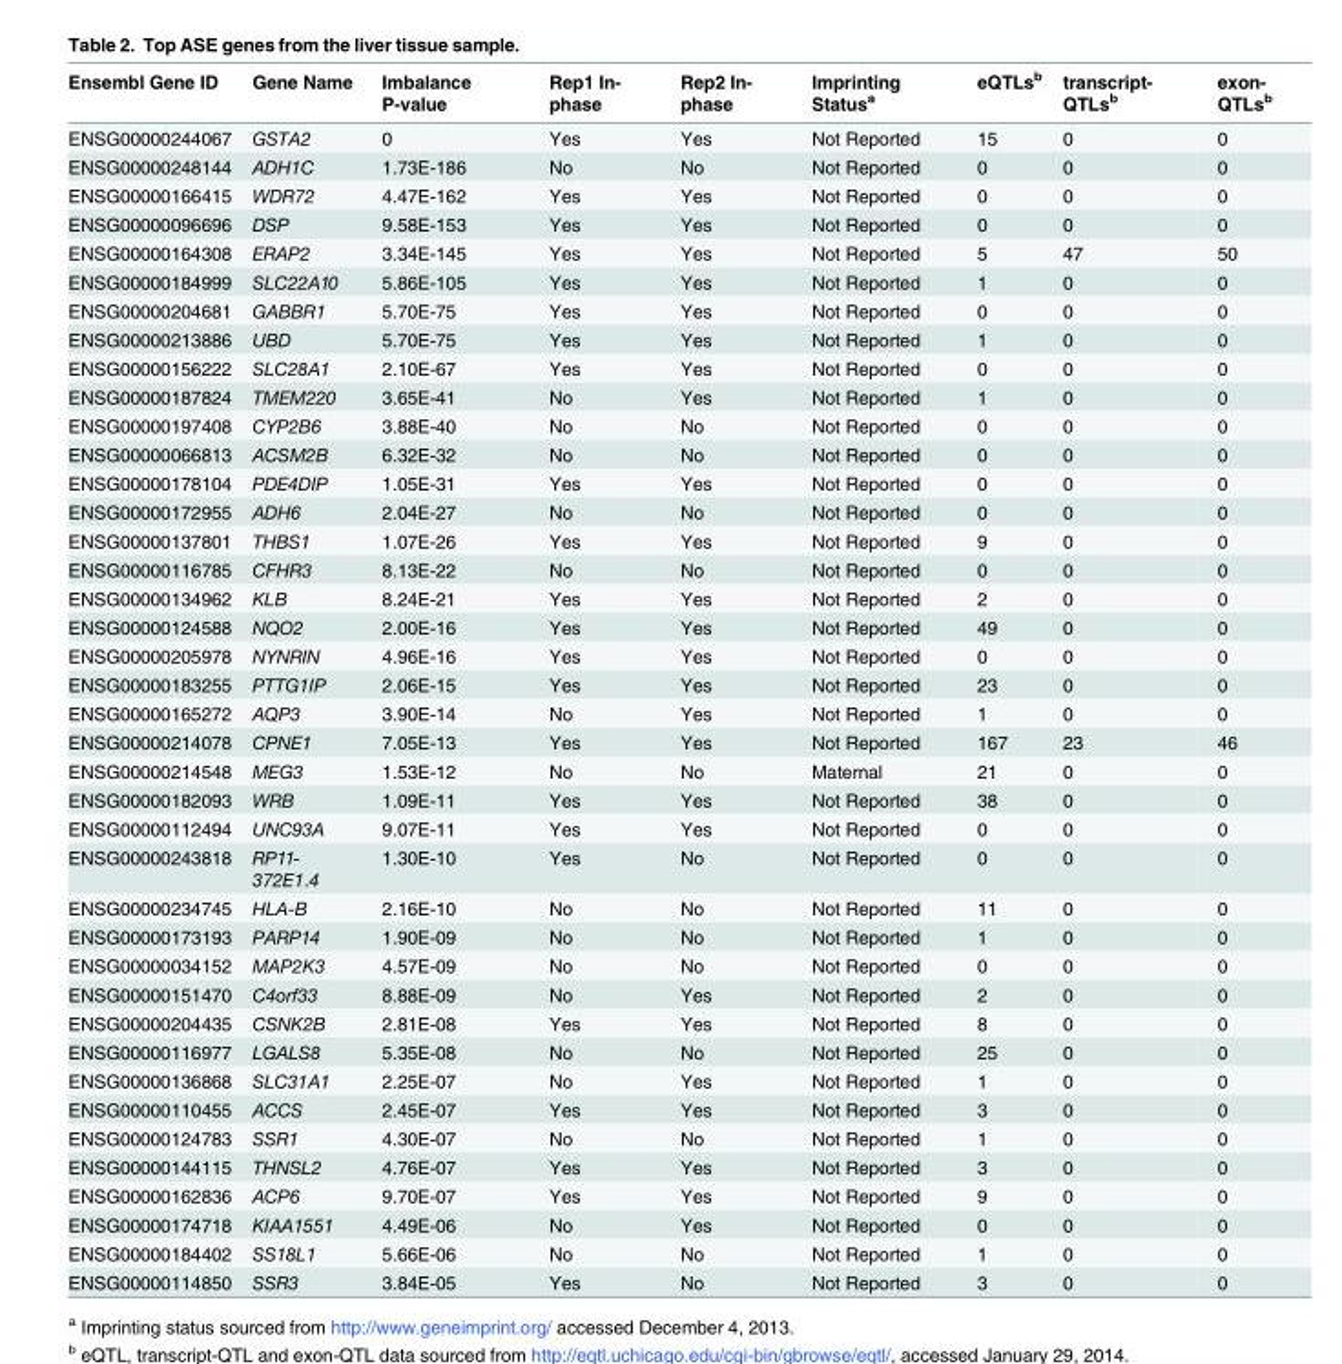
<table><thead><tr><td>Ensembl Gene ID</td><td>Gene Name</td><td>Imbalance P-value</td><td>Rep1 In- phase</td><td>Rep2 In- phase</td><td>Imprinting Status<sup>a</sup></td><td>eQTLs<sup>b</sup></td><td>transcript- QTLs<sup>b</sup></td><td>exon- QTLs<sup>b</sup></td></tr></thead><tbody><tr><td>ENSG00000244067</td><td>GSTA2</td><td>0</td><td>Yes</td><td>Yes</td><td>Not Reported</td><td>15</td><td>0</td><td>0</td></tr><tr><td>ENSG00000248144</td><td>ADH1C</td><td>1.73E-186</td><td>No</td><td>No</td><td>Not Reported</td><td>0</td><td>0</td><td>0</td></tr><tr><td>ENSG00000166415</td><td>WDR72</td><td>4.47E-162</td><td>Yes</td><td>Yes</td><td>Not Reported</td><td>0</td><td>0</td><td>0</td></tr><tr><td>ENSG00000096696</td><td>DSP</td><td>9.58E-153</td><td>Yes</td><td>Yes</td><td>Not Reported</td><td>0</td><td>0</td><td>0</td></tr><tr><td>ENSG00000164308</td><td>ERAP2</td><td>3.34E-145</td><td>Yes</td><td>Yes</td><td>Not Reported</td><td>5</td><td>47</td><td>50</td></tr><tr><td>ENSG00000184999</td><td>SLC22A10</td><td>5.86E-105</td><td>Yes</td><td>Yes</td><td>Not Reported</td><td>1</td><td>0</td><td>0</td></tr><tr><td>ENSG00000204681</td><td>GABBR1</td><td>5.70E-75</td><td>Yes</td><td>Yes</td><td>Not Reported</td><td>0</td><td>0</td><td>0</td></tr><tr><td>ENSG00000213886</td><td>UBD</td><td>5.70E-75</td><td>Yes</td><td>Yes</td><td>Not Reported</td><td>1</td><td>0</td><td>0</td></tr><tr><td>ENSG00000156222</td><td>SLC28A1</td><td>2.10E-67</td><td>Yes</td><td>Yes</td><td>Not Reported</td><td>0</td><td>0</td><td>0</td></tr><tr><td>ENSG00000187824</td><td>TMEM220</td><td>3.65E-41</td><td>No</td><td>Yes</td><td>Not Reported</td><td>1</td><td>0</td><td>0</td></tr><tr><td>ENSG00000197408</td><td>CYP2B6</td><td>3.88E-40</td><td>No</td><td>No</td><td>Not Reported</td><td>0</td><td>0</td><td>0</td></tr><tr><td>ENSG00000066813</td><td>ACSM2B</td><td>6.32E-32</td><td>No</td><td>No</td><td>Not Reported</td><td>0</td><td>0</td><td>0</td></tr><tr><td>ENSG00000178104</td><td>PDE4DIP</td><td>1.05E-31</td><td>Yes</td><td>Yes</td><td>Not Reported</td><td>0</td><td>0</td><td>0</td></tr><tr><td>ENSG00000172955</td><td>ADH6</td><td>2.04E-27</td><td>No</td><td>No</td><td>Not Reported</td><td>0</td><td>0</td><td>0</td></tr><tr><td>ENSG00000137801</td><td>THBS1</td><td>1.07E-26</td><td>Yes</td><td>Yes</td><td>Not Reported</td><td>9</td><td>0</td><td>0</td></tr><tr><td>ENSG00000116785</td><td>CFHR3</td><td>8.13E-22</td><td>No</td><td>No</td><td>Not Reported</td><td>0</td><td>0</td><td>0</td></tr><tr><td>ENSG00000134962</td><td>KLB</td><td>8.24E-21</td><td>Yes</td><td>Yes</td><td>Not Reported</td><td>2</td><td>0</td><td>0</td></tr><tr><td>ENSG00000124588</td><td>NQO2</td><td>2.00E-16</td><td>Yes</td><td>Yes</td><td>Not Reported</td><td>49</td><td>0</td><td>0</td></tr><tr><td>ENSG00000205978</td><td>NYNRIN</td><td>4.96E-16</td><td>Yes</td><td>Yes</td><td>Not Reported</td><td>0</td><td>0</td><td>0</td></tr><tr><td>ENSG00000183255</td><td>PTTG1IP</td><td>2.06E-15</td><td>Yes</td><td>Yes</td><td>Not Reported</td><td>23</td><td>0</td><td>0</td></tr><tr><td>ENSG00000165272</td><td>AQP3</td><td>3.90E-14</td><td>No</td><td>Yes</td><td>Not Reported</td><td>1</td><td>0</td><td>0</td></tr><tr><td>ENSG00000214078</td><td>CPNE1</td><td>7.05E-13</td><td>Yes</td><td>Yes</td><td>Not Reported</td><td>167</td><td>23</td><td>46</td></tr><tr><td>ENSG00000214548</td><td>MEG3</td><td>1.53E-12</td><td>No</td><td>No</td><td>Maternal</td><td>21</td><td>0</td><td>0</td></tr><tr><td>ENSG00000182093</td><td>WRB</td><td>1.09E-11</td><td>Yes</td><td>Yes</td><td>Not Reported</td><td>38</td><td>0</td><td>0</td></tr><tr><td>ENSG00000112494</td><td>UNC93A</td><td>9.07E-11</td><td>Yes</td><td>Yes</td><td>Not Reported</td><td>0</td><td>0</td><td>0</td></tr><tr><td>ENSG00000243818</td><td>RP11- 372E1.4</td><td>1.30E-10</td><td>Yes</td><td>No</td><td>Not Reported</td><td>0</td><td>0</td><td>0</td></tr><tr><td>ENSG00000234745</td><td>HLA-B</td><td>2.16E-10</td><td>No</td><td>No</td><td>Not Reported</td><td>11</td><td>0</td><td>0</td></tr><tr><td>ENSG00000173193</td><td>PARP14</td><td>1.90E-09</td><td>No</td><td>No</td><td>Not Reported</td><td>1</td><td>0</td><td>0</td></tr><tr><td>ENSG00000034152</td><td>MAP2K3</td><td>4.57E-09</td><td>No</td><td>No</td><td>Not Reported</td><td>0</td><td>0</td><td>0</td></tr><tr><td>ENSG00000151470</td><td>C4orf33</td><td>8.88E-09</td><td>No</td><td>Yes</td><td>Not Reported</td><td>2</td><td>0</td><td>0</td></tr><tr><td>ENSG00000204435</td><td>CSNK2B</td><td>2.81E-08</td><td>Yes</td><td>Yes</td><td>Not Reported</td><td>8</td><td>0</td><td>0</td></tr><tr><td>ENSG00000116977</td><td>LGALS8</td><td>5.35E-08</td><td>No</td><td>No</td><td>Not Reported</td><td>25</td><td>0</td><td>0</td></tr><tr><td>ENSG00000136868</td><td>SLC31A1</td><td>2.25E-07</td><td>No</td><td>Yes</td><td>Not Reported</td><td>1</td><td>0</td><td>0</td></tr><tr><td>ENSG00000110455</td><td>ACCS</td><td>2.45E-07</td><td>Yes</td><td>Yes</td><td>Not Reported</td><td>3</td><td>0</td><td>0</td></tr><tr><td>ENSG00000124783</td><td>SSR1</td><td>4.30E-07</td><td>No</td><td>No</td><td>Not Reported</td><td>1</td><td>0</td><td>0</td></tr><tr><td>ENSG00000144115</td><td>THNSL2</td><td>4.76E-07</td><td>Yes</td><td>Yes</td><td>Not Reported</td><td>3</td><td>0</td><td>0</td></tr><tr><td>ENSG00000162836</td><td>ACP6</td><td>9.70E-07</td><td>Yes</td><td>Yes</td><td>Not Reported</td><td>9</td><td>0</td><td>0</td></tr><tr><td>ENSG00000174718</td><td>KIAA1551</td><td>4.49E-06</td><td>No</td><td>Yes</td><td>Not Reported</td><td>0</td><td>0</td><td>0</td></tr><tr><td>ENSG00000184402</td><td>SS18L1</td><td>5.66E-06</td><td>No</td><td>No</td><td>Not Reported</td><td>1</td><td>0</td><td>0</td></tr><tr><td>ENSG00000114850</td><td>SSR3</td><td>3.84E-05</td><td>Yes</td><td>No</td><td>Not Reported</td><td>3</td><td>0</td><td>0</td></tr></tbody></table>